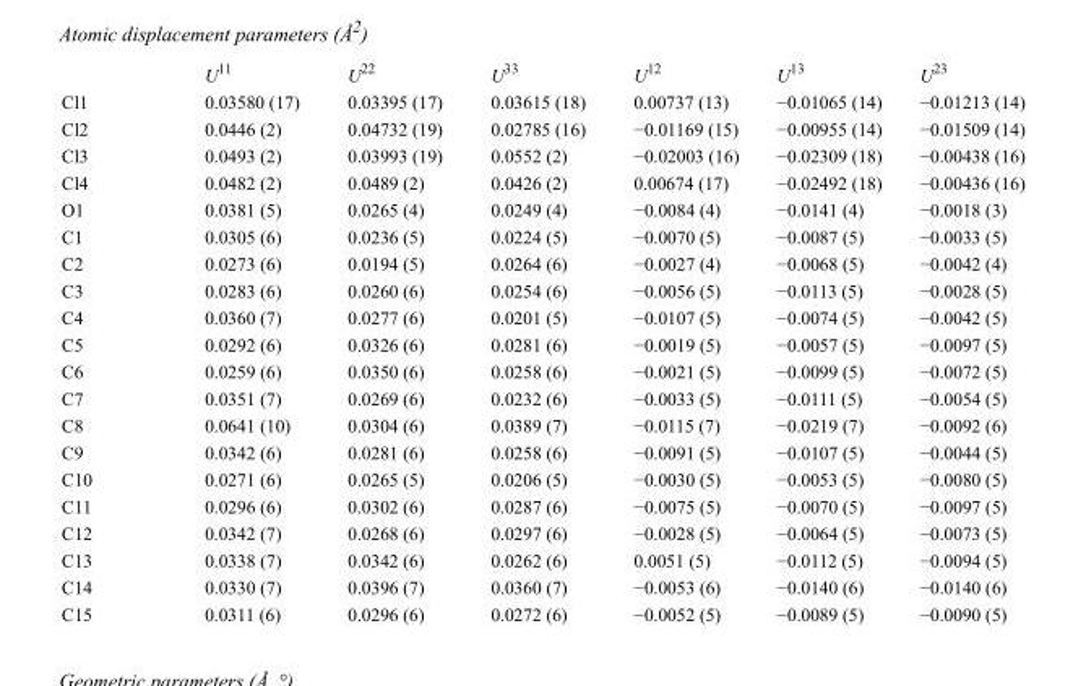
<table><thead><tr><td></td><td>U<sup>11</sup></td><td>U<sup>22</sup></td><td>U<sup>33</sup></td><td>U<sup>12</sup></td><td>U<sup>13</sup></td><td>U<sup>23</sup></td></tr></thead><tbody><tr><td>Cl1</td><td>0.03580 (17)</td><td>0.03395 (17)</td><td>0.03615 (18)</td><td>0.00737 (13)</td><td>−0.01065 (14)</td><td>−0.01213 (14)</td></tr><tr><td>Cl2</td><td>0.0446 (2)</td><td>0.04732 (19)</td><td>0.02785 (16)</td><td>−0.01169 (15)</td><td>−0.00955 (14)</td><td>−0.01509 (14)</td></tr><tr><td>Cl3</td><td>0.0493 (2)</td><td>0.03993 (19)</td><td>0.0552 (2)</td><td>−0.02003 (16)</td><td>−0.02309 (18)</td><td>−0.00438 (16)</td></tr><tr><td>Cl4</td><td>0.0482 (2)</td><td>0.0489 (2)</td><td>0.0426 (2)</td><td>0.00674 (17)</td><td>−0.02492 (18)</td><td>−0.00436 (16)</td></tr><tr><td>O1</td><td>0.0381 (5)</td><td>0.0265 (4)</td><td>0.0249 (4)</td><td>−0.0084 (4)</td><td>−0.0141 (4)</td><td>−0.0018 (3)</td></tr><tr><td>C1</td><td>0.0305 (6)</td><td>0.0236 (5)</td><td>0.0224 (5)</td><td>−0.0070 (5)</td><td>−0.0087 (5)</td><td>−0.0033 (5)</td></tr><tr><td>C2</td><td>0.0273 (6)</td><td>0.0194 (5)</td><td>0.0264 (6)</td><td>−0.0027 (4)</td><td>−0.0068 (5)</td><td>−0.0042 (4)</td></tr><tr><td>C3</td><td>0.0283 (6)</td><td>0.0260 (6)</td><td>0.0254 (6)</td><td>−0.0056 (5)</td><td>−0.0113 (5)</td><td>−0.0028 (5)</td></tr><tr><td>C4</td><td>0.0360 (7)</td><td>0.0277 (6)</td><td>0.0201 (5)</td><td>−0.0107 (5)</td><td>−0.0074 (5)</td><td>−0.0042 (5)</td></tr><tr><td>C5</td><td>0.0292 (6)</td><td>0.0326 (6)</td><td>0.0281 (6)</td><td>−0.0019 (5)</td><td>−0.0057 (5)</td><td>−0.0097 (5)</td></tr><tr><td>C6</td><td>0.0259 (6)</td><td>0.0350 (6)</td><td>0.0258 (6)</td><td>−0.0021 (5)</td><td>−0.0099 (5)</td><td>−0.0072 (5)</td></tr><tr><td>C7</td><td>0.0351 (7)</td><td>0.0269 (6)</td><td>0.0232 (6)</td><td>−0.0033 (5)</td><td>−0.0111 (5)</td><td>−0.0054 (5)</td></tr><tr><td>C8</td><td>0.0641 (10)</td><td>0.0304 (6)</td><td>0.0389 (7)</td><td>−0.0115 (7)</td><td>−0.0219 (7)</td><td>−0.0092 (6)</td></tr><tr><td>C9</td><td>0.0342 (6)</td><td>0.0281 (6)</td><td>0.0258 (6)</td><td>−0.0091 (5)</td><td>−0.0107 (5)</td><td>−0.0044 (5)</td></tr><tr><td>C10</td><td>0.0271 (6)</td><td>0.0265 (5)</td><td>0.0206 (5)</td><td>−0.0030 (5)</td><td>−0.0053 (5)</td><td>−0.0080 (5)</td></tr><tr><td>C11</td><td>0.0296 (6)</td><td>0.0302 (6)</td><td>0.0287 (6)</td><td>−0.0075 (5)</td><td>−0.0070 (5)</td><td>−0.0097 (5)</td></tr><tr><td>C12</td><td>0.0342 (7)</td><td>0.0268 (6)</td><td>0.0297 (6)</td><td>−0.0028 (5)</td><td>−0.0064 (5)</td><td>−0.0073 (5)</td></tr><tr><td>C13</td><td>0.0338 (7)</td><td>0.0342 (6)</td><td>0.0262 (6)</td><td>0.0051 (5)</td><td>−0.0112 (5)</td><td>−0.0094 (5)</td></tr><tr><td>C14</td><td>0.0330 (7)</td><td>0.0396 (7)</td><td>0.0360 (7)</td><td>−0.0053 (6)</td><td>−0.0140 (6)</td><td>−0.0140 (6)</td></tr><tr><td>C15</td><td>0.0311 (6)</td><td>0.0296 (6)</td><td>0.0272 (6)</td><td>−0.0052 (5)</td><td>−0.0089 (5)</td><td>−0.0090 (5)</td></tr></tbody></table>